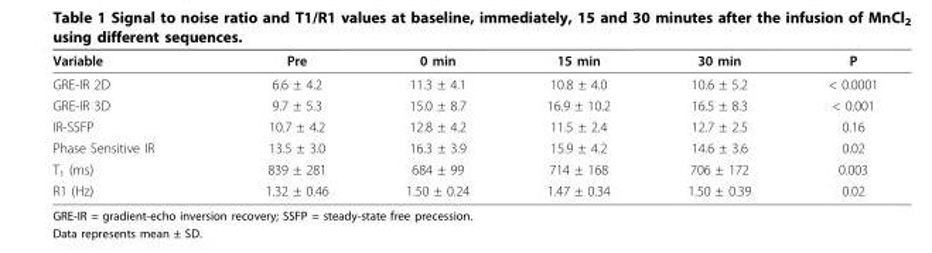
<table><thead><tr><td>Variable</td><td>Pre</td><td>0 min</td><td>15 min</td><td>30 min</td><td>P</td></tr></thead><tbody><tr><td>GRE-IR 2D</td><td>6.6 ± 4.2</td><td>11.3 ± 4.1</td><td>10.8 ± 4.0</td><td>10.6 ± 5.2</td><td>&lt; 0.0001</td></tr><tr><td>GRE-IR 3D</td><td>9.7 ± 5.3</td><td>15.0 ± 8.7</td><td>16.9 ± 10.2</td><td>16.5 ± 8.3</td><td>&lt; 0.001</td></tr><tr><td>IR-SSFP</td><td>10.7 ± 4.2</td><td>12.8 ± 4.2</td><td>11.5 ± 2.4</td><td>12.7 ± 2.5</td><td>0.16</td></tr><tr><td>Phase Sensitive IR</td><td>13.5 ± 3.0</td><td>16.3 ± 3.9</td><td>15.9 ± 4.2</td><td>14.6 ± 3.6</td><td>0.02</td></tr><tr><td>T<sub>1</sub> (ms)</td><td>839 ± 281</td><td>684 ± 99</td><td>714 ± 168</td><td>706 ± 172</td><td>0.003</td></tr><tr><td>R1 (Hz)</td><td>1.32 ± 0.46</td><td>1.50 ± 0.24</td><td>1.47 ± 0.34</td><td>1.50 ± 0.39</td><td>0.02</td></tr></tbody></table>